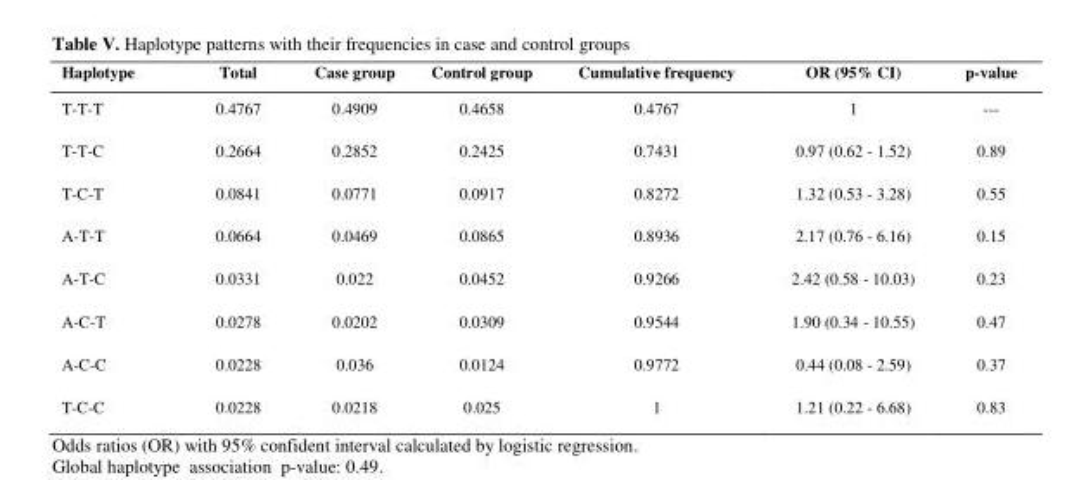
<table><thead><tr><td>Haplotype</td><td>Total</td><td>Case group</td><td>Control group</td><td>Cumulative frequency</td><td>OR (95% CI)</td><td>p-value</td></tr></thead><tbody><tr><td>T-T-T</td><td>0.4767</td><td>0.4909</td><td>0.4658</td><td>0.4767</td><td>1</td><td>---</td></tr><tr><td>T-T-C</td><td>0.2664</td><td>0.2852</td><td>0.2425</td><td>0.7431</td><td>0.97 (0.62 - 1.52)</td><td>0.89</td></tr><tr><td>T-C-T</td><td>0.0841</td><td>0.0771</td><td>0.0917</td><td>0.8272</td><td>1.32 (0.53 - 3.28)</td><td>0.55</td></tr><tr><td>A-T-T</td><td>0.0664</td><td>0.0469</td><td>0.0865</td><td>0.8936</td><td>2.17 (0.76 - 6.16)</td><td>0.15</td></tr><tr><td>A-T-C</td><td>0.0331</td><td>0.022</td><td>0.0452</td><td>0.9266</td><td>2.42 (0.58 - 10.03)</td><td>0.23</td></tr><tr><td>A-C-T</td><td>0.0278</td><td>0.0202</td><td>0.0309</td><td>0.9544</td><td>1.90 (0.34 - 10.55)</td><td>0.47</td></tr><tr><td>A-C-C</td><td>0.0228</td><td>0.036</td><td>0.0124</td><td>0.9772</td><td>0.44 (0.08 - 2.59)</td><td>0.37</td></tr><tr><td>T-C-C</td><td>0.0228</td><td>0.0218</td><td>0.025</td><td>1</td><td>1.21 (0.22 - 6.68)</td><td>0.83</td></tr></tbody></table>